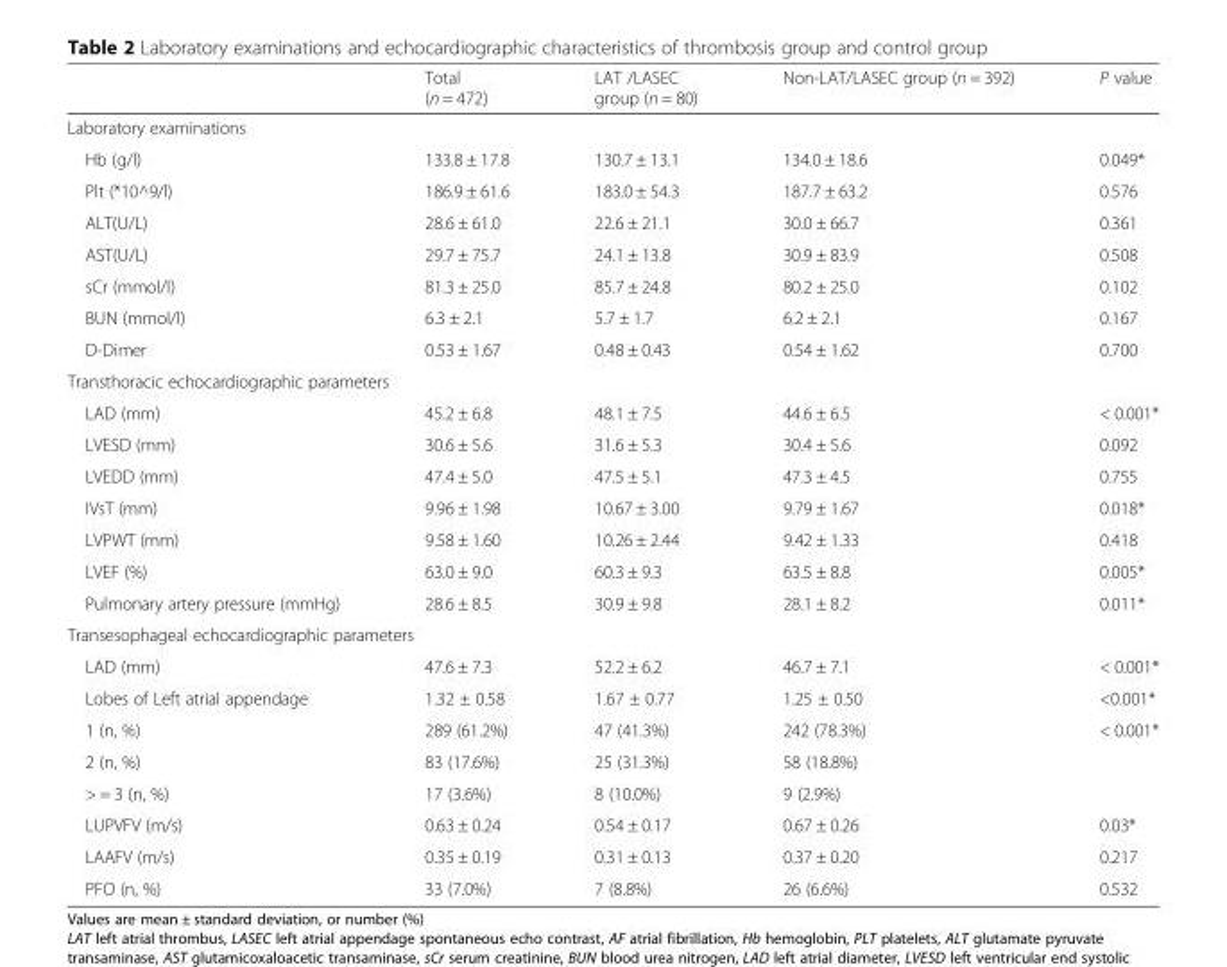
<table><thead><tr><td></td><td>Total (n = 472)</td><td>LAT /LASEC group (n = 80)</td><td>Non-LAT/LASEC group (n = 392)</td><td>P value</td></tr></thead><tbody><tr><td colspan="5">Laboratory examinations</td></tr><tr><td>Hb (g/l)</td><td>133.8 ± 17.8</td><td>130.7 ± 13.1</td><td>134.0 ± 18.6</td><td>0.049*</td></tr><tr><td>Plt (*10^9/l)</td><td>186.9 ± 61.6</td><td>183.0 ± 54.3</td><td>187.7 ± 63.2</td><td>0.576</td></tr><tr><td>ALT(U/L)</td><td>28.6 ± 61.0</td><td>22.6 ± 21.1</td><td>30.0 ± 66.7</td><td>0.361</td></tr><tr><td>AST(U/L)</td><td>29.7 ± 75.7</td><td>24.1 ± 13.8</td><td>30.9 ± 83.9</td><td>0.508</td></tr><tr><td>sCr (mmol/l)</td><td>81.3 ± 25.0</td><td>85.7 ± 24.8</td><td>80.2 ± 25.0</td><td>0.102</td></tr><tr><td>BUN (mmol/l)</td><td>6.3 ± 2.1</td><td>5.7 ± 1.7</td><td>6.2 ± 2.1</td><td>0.167</td></tr><tr><td>D-Dimer</td><td>0.53 ± 1.67</td><td>0.48 ± 0.43</td><td>0.54 ± 1.62</td><td>0.700</td></tr><tr><td colspan="5">Transthoracic echocardiographic parameters</td></tr><tr><td>LAD (mm)</td><td>45.2 ± 6.8</td><td>48.1 ± 7.5</td><td>44.6 ± 6.5</td><td>&lt; 0.001*</td></tr><tr><td>LVESD (mm)</td><td>30.6 ± 5.6</td><td>31.6 ± 5.3</td><td>30.4 ± 5.6</td><td>0.092</td></tr><tr><td>LVEDD (mm)</td><td>47.4 ± 5.0</td><td>47.5 ± 5.1</td><td>47.3 ± 4.5</td><td>0.755</td></tr><tr><td>IVsT (mm)</td><td>9.96 ± 1.98</td><td>10.67 ± 3.00</td><td>9.79 ± 1.67</td><td>0.018*</td></tr><tr><td>LVPWT (mm)</td><td>9.58 ± 1.60</td><td>10.26 ± 2.44</td><td>9.42 ± 1.33</td><td>0.418</td></tr><tr><td>LVEF (%)</td><td>63.0 ± 9.0</td><td>60.3 ± 9.3</td><td>63.5 ± 8.8</td><td>0.005*</td></tr><tr><td>Pulmonary artery pressure (mmHg)</td><td>28.6 ± 8.5</td><td>30.9 ± 9.8</td><td>28.1 ± 8.2</td><td>0.011*</td></tr><tr><td colspan="5">Transesophageal echocardiographic parameters</td></tr><tr><td>LAD (mm)</td><td>47.6 ± 7.3</td><td>52.2 ± 6.2</td><td>46.7 ± 7.1</td><td>&lt; 0.001*</td></tr><tr><td>Lobes of Left atrial appendage</td><td>1.32 ± 0.58</td><td>1.67 ± 0.77</td><td>1.25 ± 0.50</td><td>&lt;0.001*</td></tr><tr><td>1 (n, %)</td><td>289 (61.2%)</td><td>47 (41.3%)</td><td>242 (78.3%)</td><td rowspan="3">&lt; 0.001*</td></tr><tr><td>2 (n, %)</td><td>83 (17.6%)</td><td>25 (31.3%)</td><td>58 (18.8%)</td></tr><tr><td>&gt; = 3 (n, %)</td><td>17 (3.6%)</td><td>8 (10.0%)</td><td>9 (2.9%)</td></tr><tr><td>LUPVFV (m/s)</td><td>0.63 ± 0.24</td><td>0.54 ± 0.17</td><td>0.67 ± 0.26</td><td>0.03*</td></tr><tr><td>LAAFV (m/s)</td><td>0.35 ± 0.19</td><td>0.31 ± 0.13</td><td>0.37 ± 0.20</td><td>0.217</td></tr><tr><td>PFO (n, %)</td><td>33 (7.0%)</td><td>7 (8.8%)</td><td>26 (6.6%)</td><td>0.532</td></tr></tbody></table>